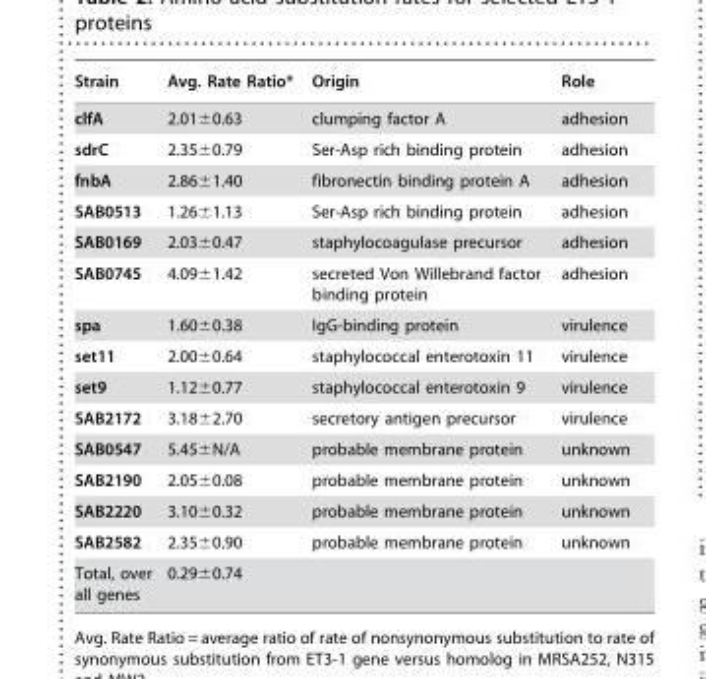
<table><thead><tr><td>Strain</td><td>Avg. Rate Ratio*</td><td>Origin</td><td>Role</td></tr></thead><tbody><tr><td>clfA</td><td>2.01±0.63</td><td>clumping factor A</td><td>adhesion</td></tr><tr><td>sdrC</td><td>2.35±0.79</td><td>Ser-Asp rich binding protein</td><td>adhesion</td></tr><tr><td>fnbA</td><td>2.86±1.40</td><td>fibronectin binding protein A</td><td>adhesion</td></tr><tr><td>SAB0513</td><td>1.26±1.13</td><td>Ser-Asp rich binding protein</td><td>adhesion</td></tr><tr><td>SAB0169</td><td>2.03±0.47</td><td>staphylocoagulase precursor</td><td>adhesion</td></tr><tr><td>SAB0745</td><td>4.09±1.42</td><td>secreted Von Willebrand factor binding protein</td><td>adhesion</td></tr><tr><td>spa</td><td>1.60±0.38</td><td>IgG-binding protein</td><td>virulence</td></tr><tr><td>set11</td><td>2.00±0.64</td><td>staphylococcal enterotoxin 11</td><td>virulence</td></tr><tr><td>set9</td><td>1.12±0.77</td><td>staphylococcal enterotoxin 9</td><td>virulence</td></tr><tr><td>SAB2172</td><td>3.18±2.70</td><td>secretory antigen precursor</td><td>virulence</td></tr><tr><td>SAB0547</td><td>5.45±N/A</td><td>probable membrane protein</td><td>unknown</td></tr><tr><td>SAB2190</td><td>2.05±0.08</td><td>probable membrane protein</td><td>unknown</td></tr><tr><td>SAB2220</td><td>3.10±0.32</td><td>probable membrane protein</td><td>unknown</td></tr><tr><td>SAB2582</td><td>2.35±0.90</td><td>probable membrane protein</td><td>unknown</td></tr><tr><td>Total, over all genes</td><td>0.29±0.74</td><td></td><td></td></tr></tbody></table>